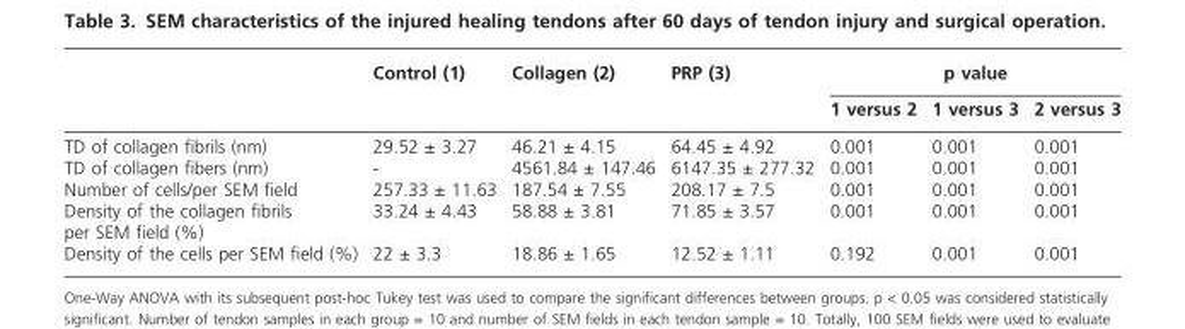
<table><thead><tr><td rowspan="2"></td><td rowspan="2">Control (1)</td><td rowspan="2">Collagen (2)</td><td rowspan="2">PRP (3)</td><td colspan="3">p value</td></tr><tr><td>1 versus 2</td><td>1 versus 3</td><td>2 versus 3</td></tr></thead><tbody><tr><td>TD of collagen fibrils (nm)</td><td>29.52 ± 3.27</td><td>46.21 ± 4.15</td><td>64.45 ± 4.92</td><td>0.001</td><td>0.001</td><td>0.001</td></tr><tr><td>TD of collagen fibers (nm)</td><td>-</td><td>4561.84 ± 147.46</td><td>6147.35 ± 277.32</td><td>0.001</td><td>0.001</td><td>0.001</td></tr><tr><td>Number of cells/per SEM field</td><td>257.33 ± 11.63</td><td>187.54 ± 7.55</td><td>208.17 ± 7.5</td><td>0.001</td><td>0.001</td><td>0.001</td></tr><tr><td>Density of the collagen fibrils per SEM field (%)</td><td>33.24 ± 4.43</td><td>58.88 ± 3.81</td><td>71.85 ± 3.57</td><td>0.001</td><td>0.001</td><td>0.001</td></tr><tr><td>Density of the cells per SEM field (%)</td><td>22 ± 3.3</td><td>18.86 ± 1.65</td><td>12.52 ± 1.11</td><td>0.192</td><td>0.001</td><td>0.001</td></tr></tbody></table>